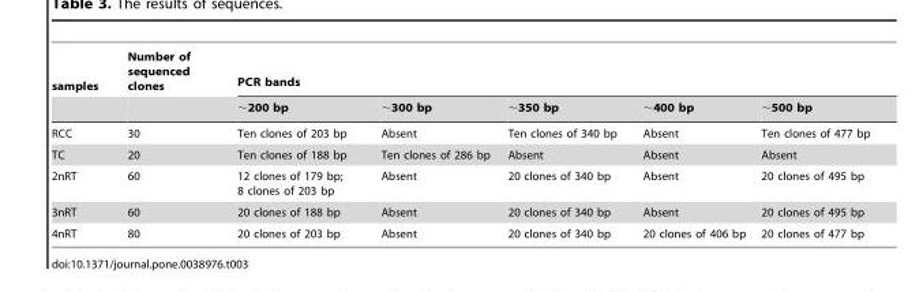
<table><thead><tr><td rowspan="2">samples</td><td rowspan="2">Number of sequenced clones</td><td colspan="5">PCR bands</td></tr><tr><td>∼200 bp</td><td>∼300 bp</td><td>∼350 bp</td><td>∼400 bp</td><td>∼500 bp</td></tr></thead><tbody><tr><td>RCC</td><td>30</td><td>Ten clones of 203 bp</td><td>Absent</td><td>Ten clones of 340 bp</td><td>Absent</td><td>Ten clones of 477 bp</td></tr><tr><td>TC</td><td>20</td><td>Ten clones of 188 bp</td><td>Ten clones of 286 bp</td><td>Absent</td><td>Absent</td><td>Absent</td></tr><tr><td>2nRT</td><td>60</td><td>12 clones of 179 bp; 8 clones of 203 bp</td><td>Absent</td><td>20 clones of 340 bp</td><td>Absent</td><td>20 clones of 495 bp</td></tr><tr><td>3nRT</td><td>60</td><td>20 clones of 188 bp</td><td>Absent</td><td>20 clones of 340 bp</td><td>Absent</td><td>20 clones of 495 bp</td></tr><tr><td>4nRT</td><td>80</td><td>20 clones of 203 bp</td><td>Absent</td><td>20 clones of 340 bp</td><td>20 clones of 406 bp</td><td>20 clones of 477 bp</td></tr></tbody></table>